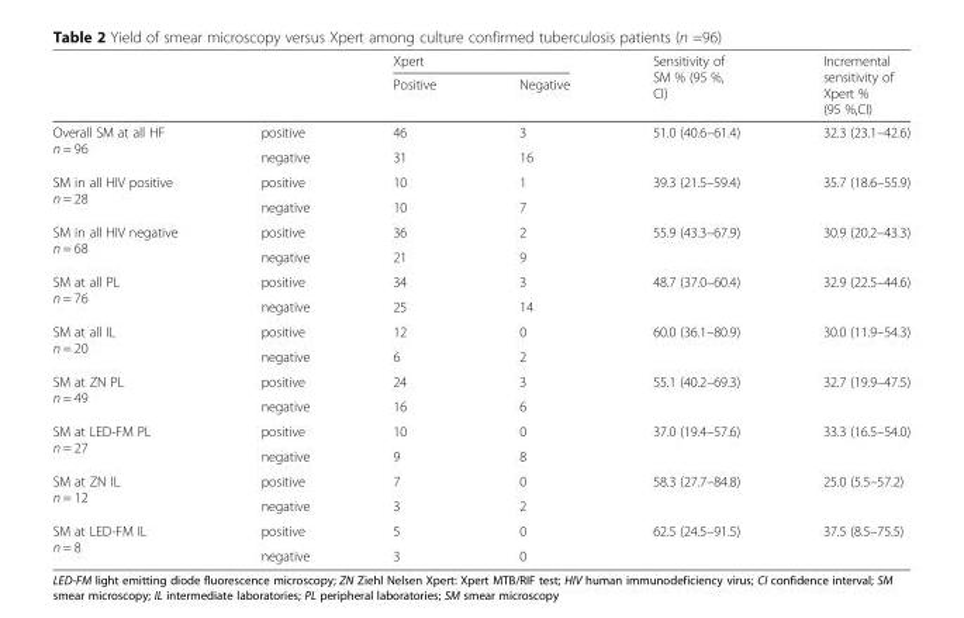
<table><thead><tr><td rowspan="2"></td><td rowspan="2"></td><td colspan="2">Xpert</td><td rowspan="2">Sensitivity of SM % (95 %, CI)</td><td rowspan="2">Incremental sensitivity of Xpert % (95 %,CI)</td></tr><tr><td>Positive</td><td>Negative</td></tr></thead><tbody><tr><td rowspan="2">Overall SM at all HF n = 96</td><td>positive</td><td>46</td><td>3</td><td rowspan="2">51.0 (40.6–61.4)</td><td rowspan="2">32.3 (23.1–42.6)</td></tr><tr><td>negative</td><td>31</td><td>16</td></tr><tr><td rowspan="2">SM in all HIV positive n = 28</td><td>positive</td><td>10</td><td>1</td><td rowspan="2">39.3 (21.5–59.4)</td><td rowspan="2">35.7 (18.6–55.9)</td></tr><tr><td>negative</td><td>10</td><td>7</td></tr><tr><td rowspan="2">SM in all HIV negative n = 68</td><td>positive</td><td>36</td><td>2</td><td rowspan="2">55.9 (43.3–67.9)</td><td rowspan="2">30.9 (20.2–43.3)</td></tr><tr><td>negative</td><td>21</td><td>9</td></tr><tr><td rowspan="2">SM at all PL n = 76</td><td>positive</td><td>34</td><td>3</td><td rowspan="2">48.7 (37.0–60.4)</td><td rowspan="2">32.9 (22.5–44.6)</td></tr><tr><td>negative</td><td>25</td><td>14</td></tr><tr><td rowspan="2">SM at all IL n = 20</td><td>positive</td><td>12</td><td>0</td><td rowspan="2">60.0 (36.1–80.9)</td><td rowspan="2">30.0 (11.9–54.3)</td></tr><tr><td>negative</td><td>6</td><td>2</td></tr><tr><td rowspan="2">SM at ZN PL n = 49</td><td>positive</td><td>24</td><td>3</td><td rowspan="2">55.1 (40.2–69.3)</td><td rowspan="2">32.7 (19.9–47.5)</td></tr><tr><td>negative</td><td>16</td><td>6</td></tr><tr><td rowspan="2">SM at LED-FM PL n = 27</td><td>positive</td><td>10</td><td>0</td><td rowspan="2">37.0 (19.4–57.6)</td><td rowspan="2">33.3 (16.5–54.0)</td></tr><tr><td>negative</td><td>9</td><td>8</td></tr><tr><td rowspan="2">SM at ZN IL n = 12</td><td>positive</td><td>7</td><td>0</td><td rowspan="2">58.3 (27.7–84.8)</td><td rowspan="2">25.0 (5.5–57.2)</td></tr><tr><td>negative</td><td>3</td><td>2</td></tr><tr><td rowspan="2">SM at LED-FM IL n = 8</td><td>positive</td><td>5</td><td>0</td><td rowspan="2">62.5 (24.5–91.5)</td><td rowspan="2">37.5 (8.5–75.5)</td></tr><tr><td>negative</td><td>3</td><td>0</td></tr></tbody></table>